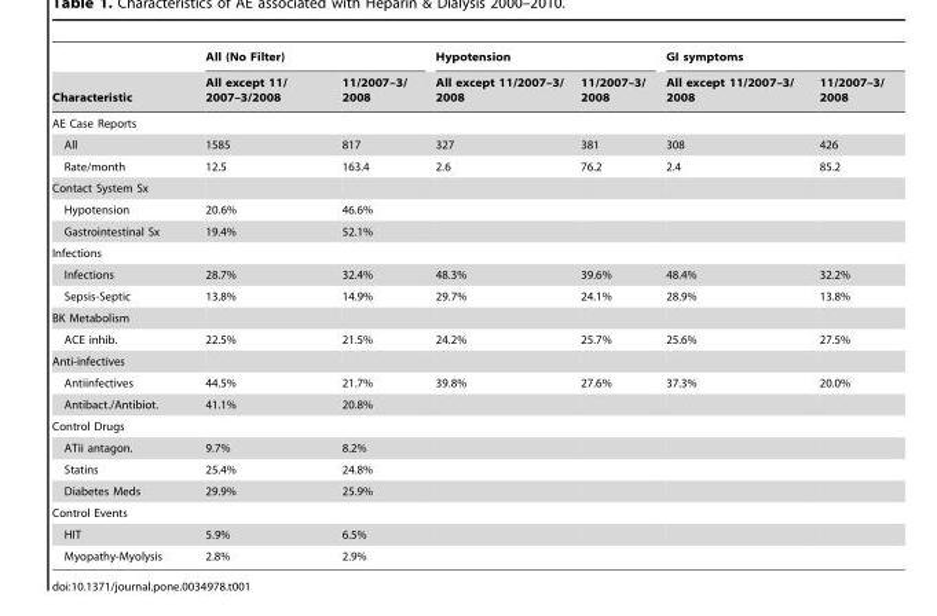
<table><thead><tr><td rowspan="2">Characteristic</td><td colspan="2">All (No Filter)</td><td colspan="2">Hypotension</td><td colspan="2">GI symptoms</td></tr><tr><td>All except 11/ 2007–3/2008</td><td>11/2007–3/ 2008</td><td>All except 11/2007–3/ 2008</td><td>11/2007–3/ 2008</td><td>All except 11/2007–3/ 2008</td><td>11/2007–3/ 2008</td></tr></thead><tbody><tr><td colspan="7">AE Case Reports</td></tr><tr><td>All</td><td>1585</td><td>817</td><td>327</td><td>381</td><td>308</td><td>426</td></tr><tr><td>Rate/month</td><td>12.5</td><td>163.4</td><td>2.6</td><td>76.2</td><td>2.4</td><td>85.2</td></tr><tr><td colspan="7">Contact System Sx</td></tr><tr><td>Hypotension</td><td>20.6%</td><td>46.6%</td><td></td><td></td><td></td><td></td></tr><tr><td>Gastrointestinal Sx</td><td>19.4%</td><td>52.1%</td><td></td><td></td><td></td><td></td></tr><tr><td colspan="7">Infections</td></tr><tr><td>Infections</td><td>28.7%</td><td>32.4%</td><td>48.3%</td><td>39.6%</td><td>48.4%</td><td>32.2%</td></tr><tr><td>Sepsis-Septic</td><td>13.8%</td><td>14.9%</td><td>29.7%</td><td>24.1%</td><td>28.9%</td><td>13.8%</td></tr><tr><td colspan="7">BK Metabolism</td></tr><tr><td>ACE inhib.</td><td>22.5%</td><td>21.5%</td><td>24.2%</td><td>25.7%</td><td>25.6%</td><td>27.5%</td></tr><tr><td colspan="7">Anti-infectives</td></tr><tr><td>Antiinfectives</td><td>44.5%</td><td>21.7%</td><td>39.8%</td><td>27.6%</td><td>37.3%</td><td>20.0%</td></tr><tr><td>Antibact./Antibiot.</td><td>41.1%</td><td>20.8%</td><td></td><td></td><td></td><td></td></tr><tr><td colspan="7">Control Drugs</td></tr><tr><td>ATii antagon.</td><td>9.7%</td><td>8.2%</td><td></td><td></td><td></td><td></td></tr><tr><td>Statins</td><td>25.4%</td><td>24.8%</td><td></td><td></td><td></td><td></td></tr><tr><td>Diabetes Meds</td><td>29.9%</td><td>25.9%</td><td></td><td></td><td></td><td></td></tr><tr><td colspan="7">Control Events</td></tr><tr><td>HIT</td><td>5.9%</td><td>6.5%</td><td></td><td></td><td></td><td></td></tr><tr><td>Myopathy-Myolysis</td><td>2.8%</td><td>2.9%</td><td></td><td></td><td></td><td></td></tr></tbody></table>